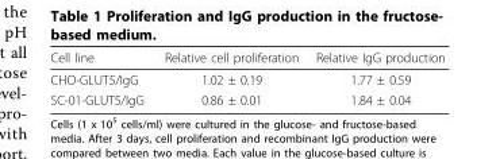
<table><thead><tr><td>Cell line</td><td>Relative cell proliferation</td><td>Relative IgG production</td></tr></thead><tbody><tr><td>CHO-GLUT5/IgG</td><td>1.02 ± 0.19</td><td>1.77 ± 0.59</td></tr><tr><td>SC-01-GLUT5/IgG</td><td>0.86 ± 0.01</td><td>1.84 ± 0.04</td></tr></tbody></table>